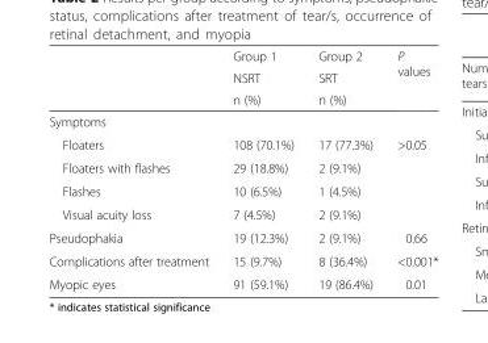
<table><thead><tr><td rowspan="3"></td><td rowspan="3">Group 1 NSRT n (%)</td><td rowspan="3">Group 2 SRT n (%)</td><td rowspan="3">P values</td></tr><tr></tr><tr></tr></thead><tbody><tr><td colspan="4">Symptoms</td></tr><tr><td>Floaters</td><td>108 (70.1%)</td><td>17 (77.3%)</td><td rowspan="4">&gt;0.05</td></tr><tr><td>Floaters with flashes</td><td>29 (18.8%)</td><td>2 (9.1%)</td></tr><tr><td>Flashes</td><td>10 (6.5%)</td><td>1 (4.5%)</td></tr><tr><td>Visual acuity loss</td><td>7 (4.5%)</td><td>2 (9.1%)</td></tr><tr><td>Pseudophakia</td><td>19 (12.3%)</td><td>2 (9.1%)</td><td>0.66</td></tr><tr><td>Complications after treatment</td><td>15 (9.7%)</td><td>8 (36.4%)</td><td>&lt;0.001*</td></tr><tr><td>Myopic eyes</td><td>91 (59.1%)</td><td>19 (86.4%)</td><td>0.01</td></tr></tbody></table>